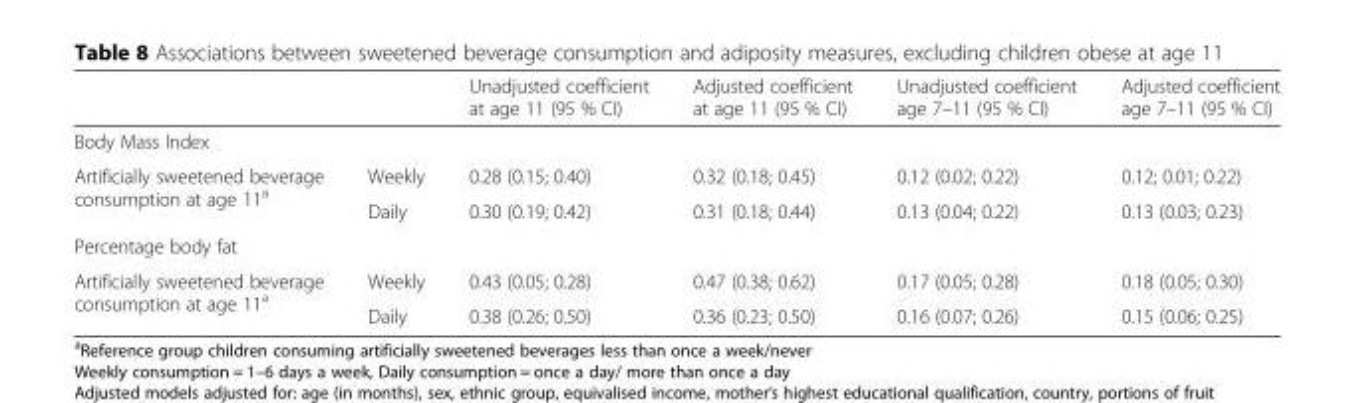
<table><thead><tr><td></td><td></td><td>Unadjusted coefficient at age 11 (95 % CI)</td><td>Adjusted coefficient at age 11 (95 % CI)</td><td>Unadjusted coefficient age 7–11 (95 % CI)</td><td>Adjusted coefficient age 7–11 (95 % CI)</td></tr></thead><tbody><tr><td colspan="6">Body Mass Index</td></tr><tr><td rowspan="2">Artificially sweetened beverage consumption at age 11<sup>a</sup></td><td>Weekly</td><td>0.28 (0.15; 0.40)</td><td>0.32 (0.18; 0.45)</td><td>0.12 (0.02; 0.22)</td><td>0.12; 0.01; 0.22)</td></tr><tr><td>Daily</td><td>0.30 (0.19; 0.42)</td><td>0.31 (0.18; 0.44)</td><td>0.13 (0.04; 0.22)</td><td>0.13 (0.03; 0.23)</td></tr><tr><td colspan="6">Percentage body fat</td></tr><tr><td rowspan="2">Artificially sweetened beverage consumption at age 11<sup>a</sup></td><td>Weekly</td><td>0.43 (0.05; 0.28)</td><td>0.47 (0.38; 0.62)</td><td>0.17 (0.05; 0.28)</td><td>0.18 (0.05; 0.30)</td></tr><tr><td>Daily</td><td>0.38 (0.26; 0.50)</td><td>0.36 (0.23; 0.50)</td><td>0.16 (0.07; 0.26)</td><td>0.15 (0.06; 0.25)</td></tr></tbody></table>